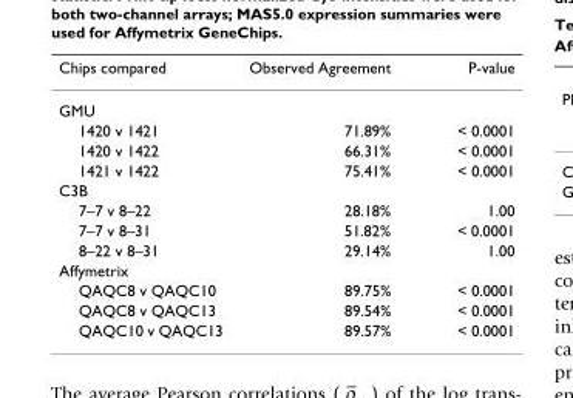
<table><thead><tr><td>Chips compared</td><td>Observed Agreement</td><td>P-value</td></tr></thead><tbody><tr><td colspan="3">GMU</td></tr><tr><td>1420 v 1421</td><td>71.89%</td><td>&lt; 0.0001</td></tr><tr><td>1420 v 1422</td><td>66.31%</td><td>&lt; 0.0001</td></tr><tr><td>1421 v 1422</td><td>75.41%</td><td>&lt; 0.0001</td></tr><tr><td colspan="3">C3B</td></tr><tr><td>7–7 v 8–22</td><td>28.18%</td><td>1.00</td></tr><tr><td>7–7 v 8–31</td><td>51.82%</td><td>&lt; 0.0001</td></tr><tr><td>8–22 v 8–31</td><td>29.14%</td><td>1.00</td></tr><tr><td colspan="3">Affymetrix</td></tr><tr><td>QAQC8 v QAQC10</td><td>89.75%</td><td>&lt; 0.0001</td></tr><tr><td>QAQC8 v QAQC13</td><td>89.54%</td><td>&lt; 0.0001</td></tr><tr><td>QAQC10 v QAQC13</td><td>89.57%</td><td>&lt; 0.0001</td></tr></tbody></table>